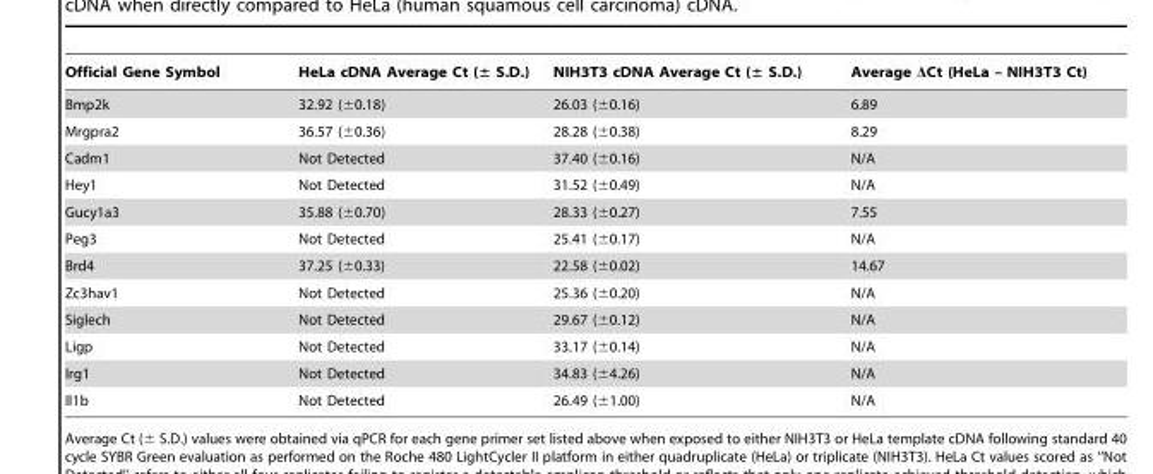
<table><thead><tr><td>Official Gene Symbol</td><td>HeLa cDNA Average Ct (± S.D.)</td><td>NIH3T3 cDNA Average Ct (± S.D.)</td><td>Average ΔCt (HeLa – NIH3T3 Ct)</td></tr></thead><tbody><tr><td>Bmp2k</td><td>32.92 (±0.18)</td><td>26.03 (±0.16)</td><td>6.89</td></tr><tr><td>Mrgpra2</td><td>36.57 (±0.36)</td><td>28.28 (±0.38)</td><td>8.29</td></tr><tr><td>Cadm1</td><td>Not Detected</td><td>37.40 (±0.16)</td><td>N/A</td></tr><tr><td>Hey1</td><td>Not Detected</td><td>31.52 (±0.49)</td><td>N/A</td></tr><tr><td>Gucy1a3</td><td>35.88 (±0.70)</td><td>28.33 (±0.27)</td><td>7.55</td></tr><tr><td>Peg3</td><td>Not Detected</td><td>25.41 (±0.17)</td><td>N/A</td></tr><tr><td>Brd4</td><td>37.25 (±0.33)</td><td>22.58 (±0.02)</td><td>14.67</td></tr><tr><td>Zc3hav1</td><td>Not Detected</td><td>25.36 (±0.20)</td><td>N/A</td></tr><tr><td>Siglech</td><td>Not Detected</td><td>29.67 (±0.12)</td><td>N/A</td></tr><tr><td>Ligp</td><td>Not Detected</td><td>33.17 (±0.14)</td><td>N/A</td></tr><tr><td>Irg1</td><td>Not Detected</td><td>34.83 (±4.26)</td><td>N/A</td></tr><tr><td>Il1b</td><td>Not Detected</td><td>26.49 (±1.00)</td><td>N/A</td></tr></tbody></table>